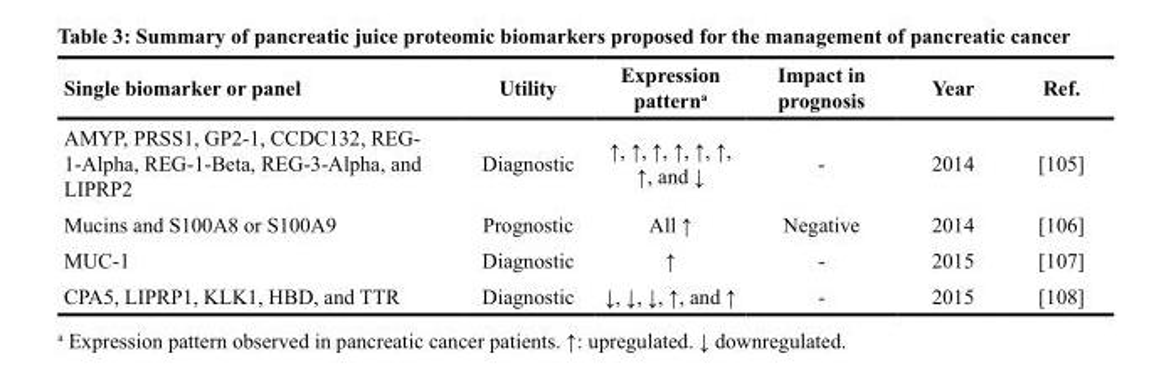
<table><thead><tr><td>Single biomarker or panel</td><td>Utility</td><td>Expression pattern<sup>a</sup></td><td>Impact in prognosis</td><td>Year</td><td>Ref.</td></tr></thead><tbody><tr><td>AMYP, PRSS1, GP2-1, CCDC132, REG- 1-Alpha, REG-1-Beta, REG-3-Alpha, and LIPRP2</td><td>Diagnostic</td><td>↑, ↑, ↑, ↑, ↑, ↑, ↑, and ↓</td><td>-</td><td>2014</td><td>[105]</td></tr><tr><td>Mucins and S100A8 or S100A9</td><td>Prognostic</td><td>All ↑</td><td>Negative</td><td>2014</td><td>[106]</td></tr><tr><td>MUC-1</td><td>Diagnostic</td><td>↑</td><td>-</td><td>2015</td><td>[107]</td></tr><tr><td>CPA5, LIPRP1, KLK1, HBD, and TTR</td><td>Diagnostic</td><td>↓, ↓, ↓, ↑, and ↑</td><td>-</td><td>2015</td><td>[108]</td></tr></tbody></table>